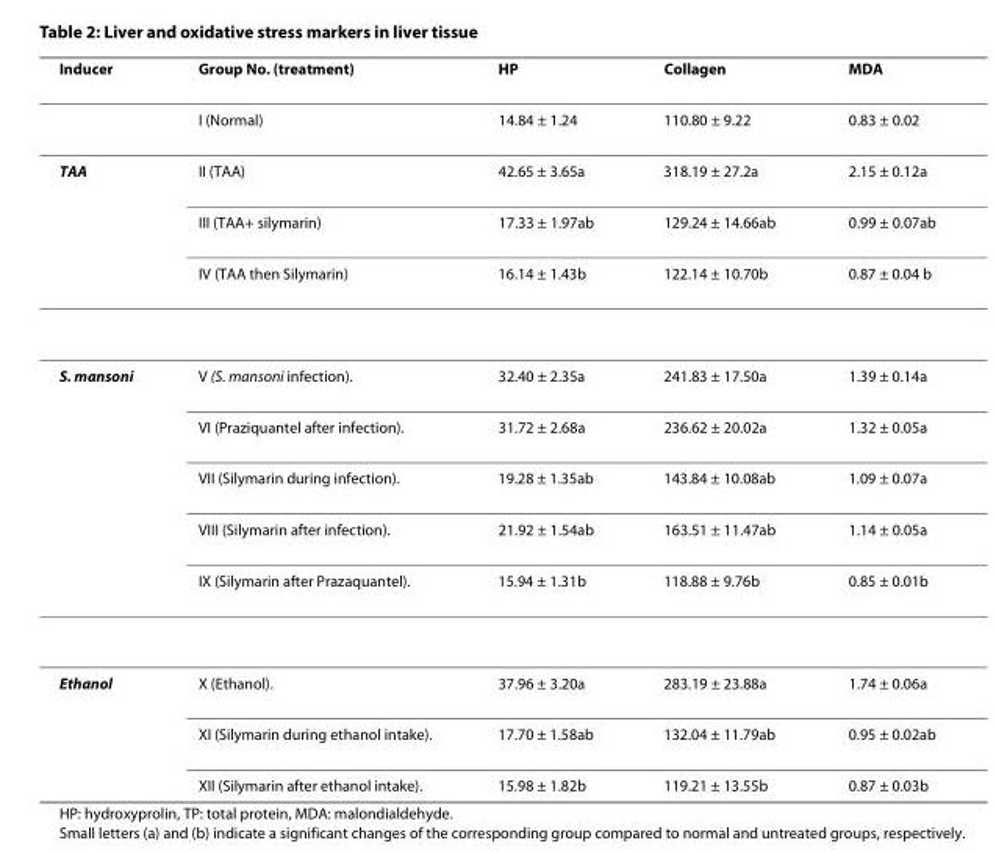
<table><thead><tr><td>Inducer</td><td>Group No. (treatment)</td><td>HP</td><td>Collagen</td><td>MDA</td></tr></thead><tbody><tr><td></td><td>I (Normal)</td><td>14.84 ± 1.24</td><td>110.80 ± 9.22</td><td>0.83 ± 0.02</td></tr><tr><td rowspan="3">TAA</td><td>II (TAA)</td><td>42.65 ± 3.65a</td><td>318.19 ± 27.2a</td><td>2.15 ± 0.12a</td></tr><tr><td>III (TAA+ silymarin)</td><td>17.33 ± 1.97ab</td><td>129.24 ± 14.66ab</td><td>0.99 ± 0.07ab</td></tr><tr><td>IV (TAA then Silymarin)</td><td>16.14 ± 1.43b</td><td>122.14 ± 10.70b</td><td>0.87 ± 0.04 b</td></tr><tr><td rowspan="5">S. mansoni</td><td>V (S. mansoni infection).</td><td>32.40 ± 2.35a</td><td>241.83 ± 17.50a</td><td>1.39 ± 0.14a</td></tr><tr><td>VI (Praziquantel after infection).</td><td>31.72 ± 2.68a</td><td>236.62 ± 20.02a</td><td>1.32 ± 0.05a</td></tr><tr><td>VII (Silymarin during infection).</td><td>19.28 ± 1.35ab</td><td>143.84 ± 10.08ab</td><td>1.09 ± 0.07a</td></tr><tr><td>VIII (Silymarin after infection).</td><td>21.92 ± 1.54ab</td><td>163.51 ± 11.47ab</td><td>1.14 ± 0.05a</td></tr><tr><td>IX (Silymarin after Prazaquantel).</td><td>15.94 ± 1.31b</td><td>118.88 ± 9.76b</td><td>0.85 ± 0.01b</td></tr><tr><td rowspan="3">Ethanol</td><td>X (Ethanol).</td><td>37.96 ± 3.20a</td><td>283.19 ± 23.88a</td><td>1.74 ± 0.06a</td></tr><tr><td>XI (Silymarin during ethanol intake).</td><td>17.70 ± 1.58ab</td><td>132.04 ± 11.79ab</td><td>0.95 ± 0.02ab</td></tr><tr><td>XII (Silymarin after ethanol intake).</td><td>15.98 ± 1.82b</td><td>119.21 ± 13.55b</td><td>0.87 ± 0.03b</td></tr></tbody></table>